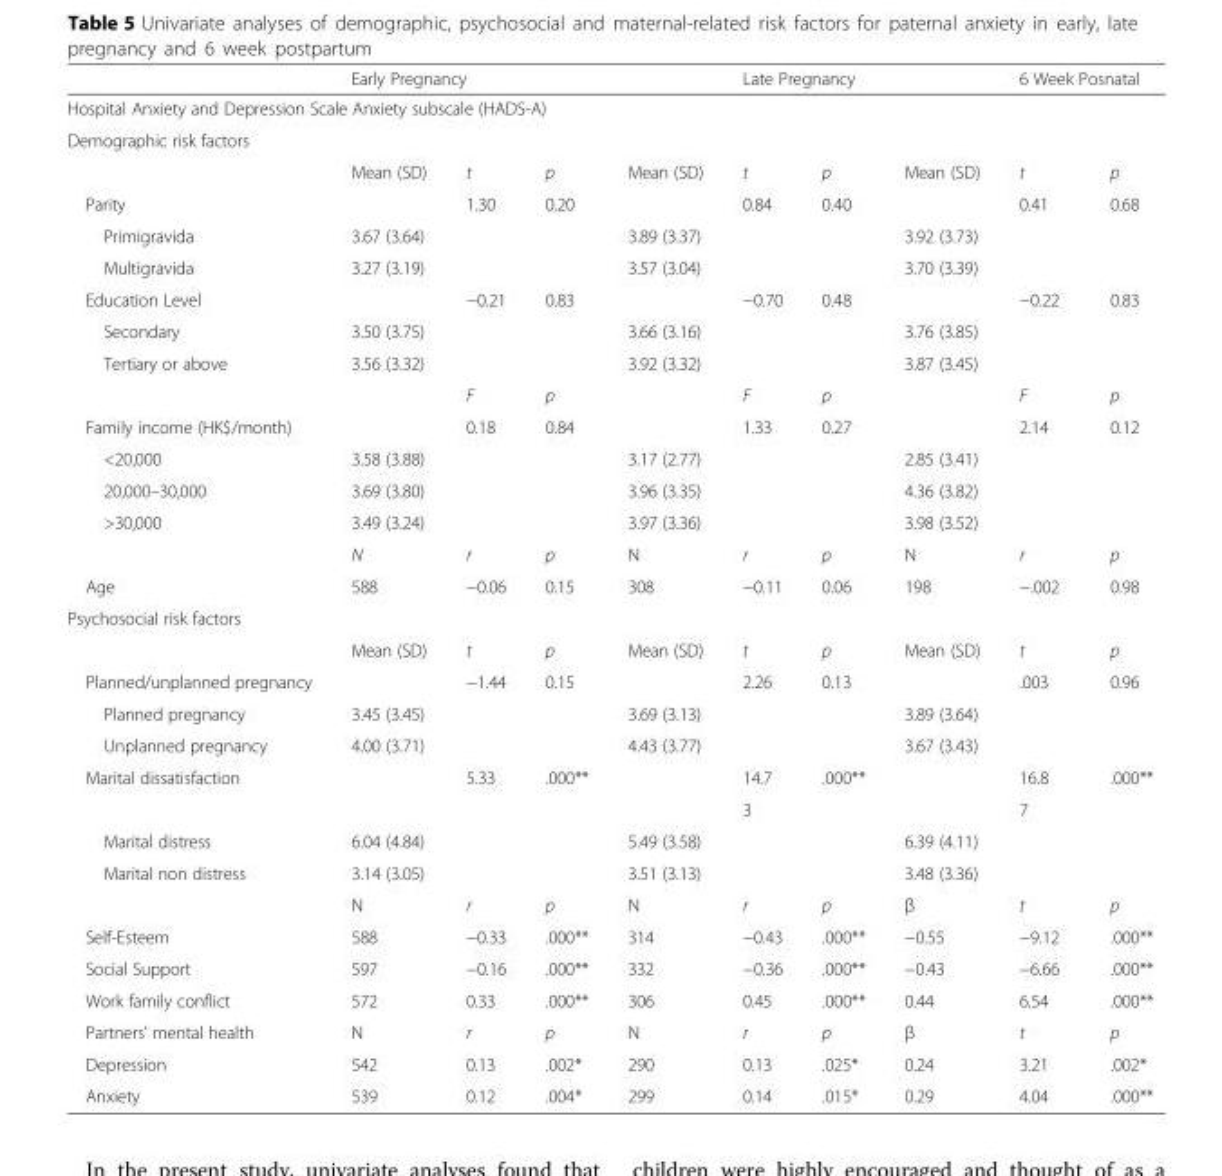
<table><thead><tr><td></td><td colspan="4">Early Pregnancy</td><td colspan="3">Late Pregnancy</td><td colspan="2">6 Week Posnatal</td></tr><tr><td rowspan="2" colspan="10">Hospital Anxiety and Depression Scale Anxiety subscale (HADS-A) Demographic risk factors</td></tr><tr></tr><tr><td></td><td>Mean (SD)</td><td>t</td><td>p</td><td>Mean (SD)</td><td>t</td><td>p</td><td>Mean (SD)</td><td>t</td><td>p</td></tr></thead><tbody><tr><td>Parity</td><td></td><td>1.30</td><td>0.20</td><td></td><td>0.84</td><td>0.40</td><td></td><td>0.41</td><td>0.68</td></tr><tr><td>Primigravida</td><td>3.67 (3.64)</td><td></td><td></td><td>3.89 (3.37)</td><td></td><td></td><td>3.92 (3.73)</td><td></td><td></td></tr><tr><td>Multigravida</td><td>3.27 (3.19)</td><td></td><td></td><td>3.57 (3.04)</td><td></td><td></td><td>3.70 (3.39)</td><td></td><td></td></tr><tr><td>Education Level</td><td></td><td>−0.21</td><td>0.83</td><td></td><td>−0.70</td><td>0.48</td><td></td><td>−0.22</td><td>0.83</td></tr><tr><td>Secondary</td><td>3.50 (3.75)</td><td></td><td></td><td>3.66 (3.16)</td><td></td><td></td><td>3.76 (3.85)</td><td></td><td></td></tr><tr><td rowspan="2">Tertiary or above</td><td>3.56 (3.32)</td><td></td><td></td><td>3.92 (3.32)</td><td></td><td></td><td>3.87 (3.45)</td><td></td><td></td></tr><tr><td></td><td>F</td><td>p</td><td></td><td>F</td><td>p</td><td></td><td>F</td><td>p</td></tr><tr><td>Family income (HK$/month)</td><td></td><td>0.18</td><td>0.84</td><td></td><td>1.33</td><td>0.27</td><td></td><td>2.14</td><td>0.12</td></tr><tr><td>&lt;20,000</td><td>3.58 (3.88)</td><td></td><td></td><td>3.17 (2.77)</td><td></td><td></td><td>2.85 (3.41)</td><td></td><td></td></tr><tr><td>20,000–30,000</td><td>3.69 (3.80)</td><td></td><td></td><td>3.96 (3.35)</td><td></td><td></td><td>4.36 (3.82)</td><td></td><td></td></tr><tr><td rowspan="2">&gt;30,000</td><td>3.49 (3.24)</td><td></td><td></td><td>3.97 (3.36)</td><td></td><td></td><td>3.98 (3.52)</td><td></td><td></td></tr><tr><td>N</td><td>r</td><td>p</td><td>N</td><td>r</td><td>p</td><td>N</td><td>r</td><td>p</td></tr><tr><td>Age</td><td>588</td><td>−0.06</td><td>0.15</td><td>308</td><td>−0.11</td><td>0.06</td><td>198</td><td>−.002</td><td>0.98</td></tr><tr><td colspan="10">Psychosocial risk factors</td></tr><tr><td></td><td>Mean (SD)</td><td>t</td><td>p</td><td>Mean (SD)</td><td>t</td><td>p</td><td>Mean (SD)</td><td>t</td><td>p</td></tr><tr><td>Planned/unplanned pregnancy</td><td></td><td>−1.44</td><td>0.15</td><td></td><td>2.26</td><td>0.13</td><td></td><td>.003</td><td>0.96</td></tr><tr><td>Planned pregnancy</td><td>3.45 (3.45)</td><td></td><td></td><td>3.69 (3.13)</td><td></td><td></td><td>3.89 (3.64)</td><td></td><td></td></tr><tr><td>Unplanned pregnancy</td><td>4.00 (3.71)</td><td></td><td></td><td>4.43 (3.77)</td><td></td><td></td><td>3.67 (3.43)</td><td></td><td></td></tr><tr><td rowspan="2">Marital dissatisfaction</td><td rowspan="2"></td><td rowspan="2">5.33</td><td rowspan="2">.000**</td><td rowspan="2"></td><td>14.7</td><td rowspan="2">.000**</td><td rowspan="2"></td><td>16.8</td><td rowspan="2">.000**</td></tr><tr><td>3</td><td>7</td></tr><tr><td>Marital distress</td><td>6.04 (4.84)</td><td></td><td></td><td>5.49 (3.58)</td><td></td><td></td><td>6.39 (4.11)</td><td></td><td></td></tr><tr><td rowspan="2">Marital non distress</td><td>3.14 (3.05)</td><td></td><td></td><td>3.51 (3.13)</td><td></td><td></td><td>3.48 (3.36)</td><td></td><td></td></tr><tr><td>N</td><td>r</td><td>p</td><td>N</td><td>r</td><td>p</td><td>β</td><td>t</td><td>p</td></tr><tr><td>Self-Esteem</td><td>588</td><td>−0.33</td><td>.000**</td><td>314</td><td>−0.43</td><td>.000**</td><td>−0.55</td><td>−9.12</td><td>.000**</td></tr><tr><td>Social Support</td><td>597</td><td>−0.16</td><td>.000**</td><td>332</td><td>−0.36</td><td>.000**</td><td>−0.43</td><td>−6.66</td><td>.000**</td></tr><tr><td>Work family conflict</td><td>572</td><td>0.33</td><td>.000**</td><td>306</td><td>0.45</td><td>.000**</td><td>0.44</td><td>6.54</td><td>.000**</td></tr><tr><td>Partners’ mental health</td><td>N</td><td>r</td><td>p</td><td>N</td><td>r</td><td>p</td><td>β</td><td>t</td><td>p</td></tr><tr><td>Depression</td><td>542</td><td>0.13</td><td>.002*</td><td>290</td><td>0.13</td><td>.025*</td><td>0.24</td><td>3.21</td><td>.002*</td></tr><tr><td>Anxiety</td><td>539</td><td>0.12</td><td>.004*</td><td>299</td><td>0.14</td><td>.015*</td><td>0.29</td><td>4.04</td><td>.000**</td></tr></tbody></table>